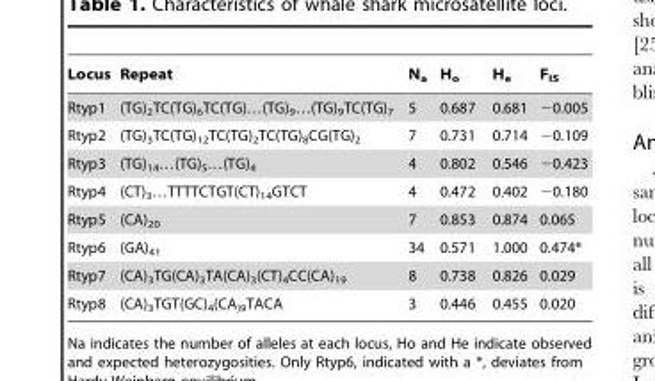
<table><thead><tr><td>Locus</td><td>Repeat</td><td>N<sub>a</sub></td><td>H<sub>o</sub></td><td>H<sub>e</sub></td><td>F<sub>IS</sub></td></tr></thead><tbody><tr><td>Rtyp1</td><td>(TG)<sub>2</sub>TC(TG)<sub>6</sub>TC(TG)…(TG)<sub>9</sub>…(TG)<sub>9</sub>TC(TG)<sub>7</sub></td><td>5</td><td>0.687</td><td>0.681</td><td>−0.005</td></tr><tr><td>Rtyp2</td><td>(TG)<sub>3</sub>TC(TG)<sub>12</sub>TC(TG)<sub>2</sub>TC(TG)<sub>8</sub>CG(TG)<sub>2</sub></td><td>7</td><td>0.731</td><td>0.714</td><td>−0.109</td></tr><tr><td>Rtyp3</td><td>(TG)<sub>14</sub>…(TG)<sub>5</sub>…(TG)<sub>4</sub></td><td>4</td><td>0.802</td><td>0.546</td><td>−0.423</td></tr><tr><td>Rtyp4</td><td>(CT)<sub>3</sub>…TTTTCTGT(CT)<sub>14</sub>GTCT</td><td>4</td><td>0.472</td><td>0.402</td><td>−0.180</td></tr><tr><td>Rtyp5</td><td>(CA)<sub>20</sub></td><td>7</td><td>0.853</td><td>0.874</td><td>0.065</td></tr><tr><td>Rtyp6</td><td>(GA)<sub>41</sub></td><td>34</td><td>0.571</td><td>1.000</td><td>0.474*</td></tr><tr><td>Rtyp7</td><td>(CA)<sub>3</sub>TG(CA)<sub>3</sub>TA(CA)<sub>3</sub>(CT)<sub>4</sub>CC(CA)<sub>19</sub></td><td>8</td><td>0.738</td><td>0.826</td><td>0.029</td></tr><tr><td>Rtyp8</td><td>(CA)<sub>3</sub>TGT(GC)<sub>4</sub>(CA<sub>)9</sub>TACA</td><td>3</td><td>0.446</td><td>0.455</td><td>0.020</td></tr></tbody></table>